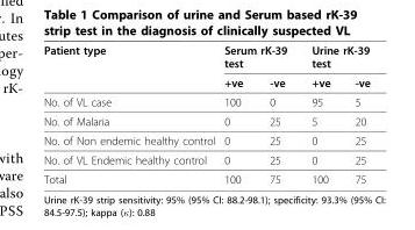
<table><thead><tr><td rowspan="2">Patient type</td><td colspan="2">Serum rK-39 test</td><td colspan="2">Urine rK-39 test</td></tr><tr><td>+ve</td><td>-ve</td><td>+ve</td><td>-ve</td></tr></thead><tbody><tr><td>No. of VL case</td><td>100</td><td>0</td><td>95</td><td>5</td></tr><tr><td>No. of Malaria</td><td>0</td><td>25</td><td>5</td><td>20</td></tr><tr><td>No. of Non endemic healthy control</td><td>0</td><td>25</td><td>0</td><td>25</td></tr><tr><td>No. of VL Endemic healthy control</td><td>0</td><td>25</td><td>0</td><td>25</td></tr><tr><td>Total</td><td>100</td><td>75</td><td>100</td><td>75</td></tr></tbody></table>